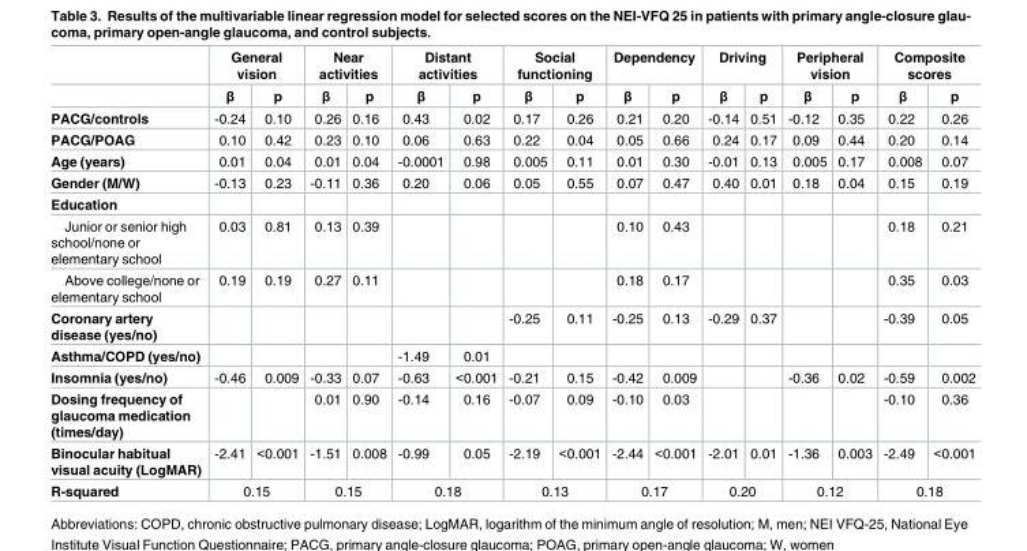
<table><thead><tr><td rowspan="2"></td><td colspan="2">General vision</td><td colspan="2">Near activities</td><td colspan="2">Distant activities</td><td colspan="2">Social functioning</td><td colspan="2">Dependency</td><td colspan="2">Driving</td><td colspan="2">Peripheral vision</td><td colspan="2">Composite scores</td></tr><tr><td>β</td><td>p</td><td>β</td><td>p</td><td>β</td><td>p</td><td>β</td><td>p</td><td>β</td><td>p</td><td>β</td><td>p</td><td>β</td><td>p</td><td>β</td><td>p</td></tr></thead><tbody><tr><td>PACG/controls</td><td>-0.24</td><td>0.10</td><td>0.26</td><td>0.16</td><td>0.43</td><td>0.02</td><td>0.17</td><td>0.26</td><td>0.21</td><td>0.20</td><td>-0.14</td><td>0.51</td><td>-0.12</td><td>0.35</td><td>0.22</td><td>0.26</td></tr><tr><td>PACG/POAG</td><td>0.10</td><td>0.42</td><td>0.23</td><td>0.10</td><td>0.06</td><td>0.63</td><td>0.22</td><td>0.04</td><td>0.05</td><td>0.66</td><td>0.24</td><td>0.17</td><td>0.09</td><td>0.44</td><td>0.20</td><td>0.14</td></tr><tr><td>Age (years)</td><td>0.01</td><td>0.04</td><td>0.01</td><td>0.04</td><td>-0.0001</td><td>0.98</td><td>0.005</td><td>0.11</td><td>0.01</td><td>0.30</td><td>-0.01</td><td>0.13</td><td>0.005</td><td>0.17</td><td>0.008</td><td>0.07</td></tr><tr><td>Gender (M/W)</td><td>-0.13</td><td>0.23</td><td>-0.11</td><td>0.36</td><td>0.20</td><td>0.06</td><td>0.05</td><td>0.55</td><td>0.07</td><td>0.47</td><td>0.40</td><td>0.01</td><td>0.18</td><td>0.04</td><td>0.15</td><td>0.19</td></tr><tr><td colspan="17">Education</td></tr><tr><td>Junior or senior high school/none or elementary school</td><td>0.03</td><td>0.81</td><td>0.13</td><td>0.39</td><td></td><td></td><td></td><td></td><td>0.10</td><td>0.43</td><td></td><td></td><td></td><td></td><td>0.18</td><td>0.21</td></tr><tr><td>Above college/none or elementary school</td><td>0.19</td><td>0.19</td><td>0.27</td><td>0.11</td><td></td><td></td><td></td><td></td><td>0.18</td><td>0.17</td><td></td><td></td><td></td><td></td><td>0.35</td><td>0.03</td></tr><tr><td>Coronary artery disease (yes/no)</td><td></td><td></td><td></td><td></td><td></td><td></td><td>-0.25</td><td>0.11</td><td>-0.25</td><td>0.13</td><td>-0.29</td><td>0.37</td><td></td><td></td><td>-0.39</td><td>0.05</td></tr><tr><td>Asthma/COPD (yes/no)</td><td></td><td></td><td></td><td></td><td>-1.49</td><td>0.01</td><td></td><td></td><td></td><td></td><td></td><td></td><td></td><td></td><td></td><td></td></tr><tr><td>Insomnia (yes/no)</td><td>-0.46</td><td>0.009</td><td>-0.33</td><td>0.07</td><td>-0.63</td><td>&lt;0.001</td><td>-0.21</td><td>0.15</td><td>-0.42</td><td>0.009</td><td></td><td></td><td>-0.36</td><td>0.02</td><td>-0.59</td><td>0.002</td></tr><tr><td>Dosing frequency of glaucoma medication (times/day)</td><td></td><td></td><td>0.01</td><td>0.90</td><td>-0.14</td><td>0.16</td><td>-0.07</td><td>0.09</td><td>-0.10</td><td>0.03</td><td></td><td></td><td></td><td></td><td>-0.10</td><td>0.36</td></tr><tr><td>Binocular habitual visual acuity (LogMAR)</td><td>-2.41</td><td>&lt;0.001</td><td>-1.51</td><td>0.008</td><td>-0.99</td><td>0.05</td><td>-2.19</td><td>&lt;0.001</td><td>-2.44</td><td>&lt;0.001</td><td>-2.01</td><td>0.01</td><td>-1.36</td><td>0.003</td><td>-2.49</td><td>&lt;0.001</td></tr><tr><td>R-squared</td><td colspan="2">0.15</td><td colspan="2">0.15</td><td colspan="2">0.18</td><td colspan="2">0.13</td><td colspan="2">0.17</td><td colspan="2">0.20</td><td colspan="2">0.12</td><td colspan="2">0.18</td></tr></tbody></table>